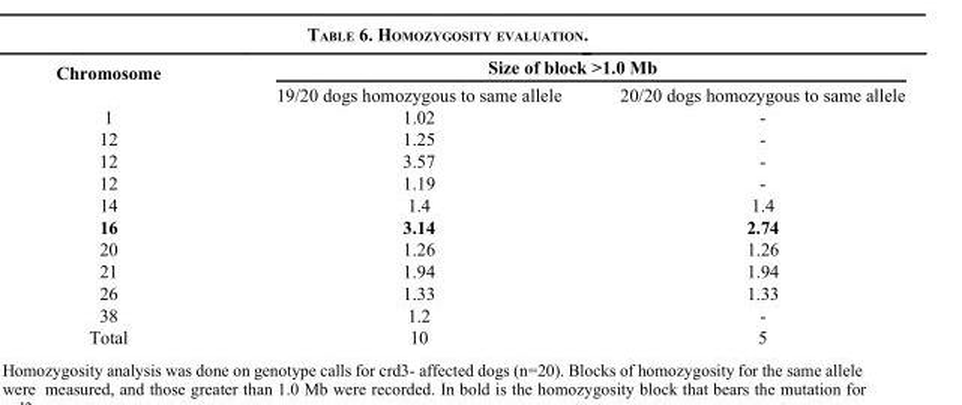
<table><thead><tr><td rowspan="2">Chromosome</td><td colspan="2">Size of block &gt;1.0 Mb</td></tr><tr><td>19/20 dogs homozygous to same allele</td><td>20/20 dogs homozygous to same allele</td></tr></thead><tbody><tr><td>1</td><td>1.02</td><td>-</td></tr><tr><td>12</td><td>1.25</td><td>-</td></tr><tr><td>12</td><td>3.57</td><td>-</td></tr><tr><td>12</td><td>1.19</td><td>-</td></tr><tr><td>14</td><td>1.4</td><td>1.4</td></tr><tr><td>16</td><td>3.14</td><td>2.74</td></tr><tr><td>20</td><td>1.26</td><td>1.26</td></tr><tr><td>21</td><td>1.94</td><td>1.94</td></tr><tr><td>26</td><td>1.33</td><td>1.33</td></tr><tr><td>38</td><td>1.2</td><td>-</td></tr><tr><td>Total</td><td>10</td><td>5</td></tr></tbody></table>